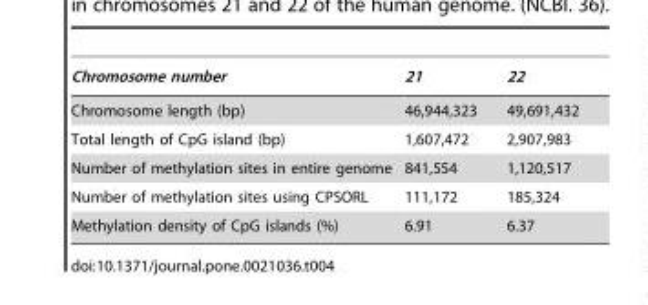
<table><thead><tr><td>Chromosome number</td><td>21</td><td>22</td></tr></thead><tbody><tr><td>Chromosome length (bp)</td><td>46,944,323</td><td>49,691,432</td></tr><tr><td>Total length of CpG island (bp)</td><td>1,607,472</td><td>2,907,983</td></tr><tr><td>Number of methylation sites in entire genome</td><td>841,554</td><td>1,120,517</td></tr><tr><td>Number of methylation sites using CPSORL</td><td>111,172</td><td>185,324</td></tr><tr><td>Methylation density of CpG islands (%)</td><td>6.91</td><td>6.37</td></tr></tbody></table>